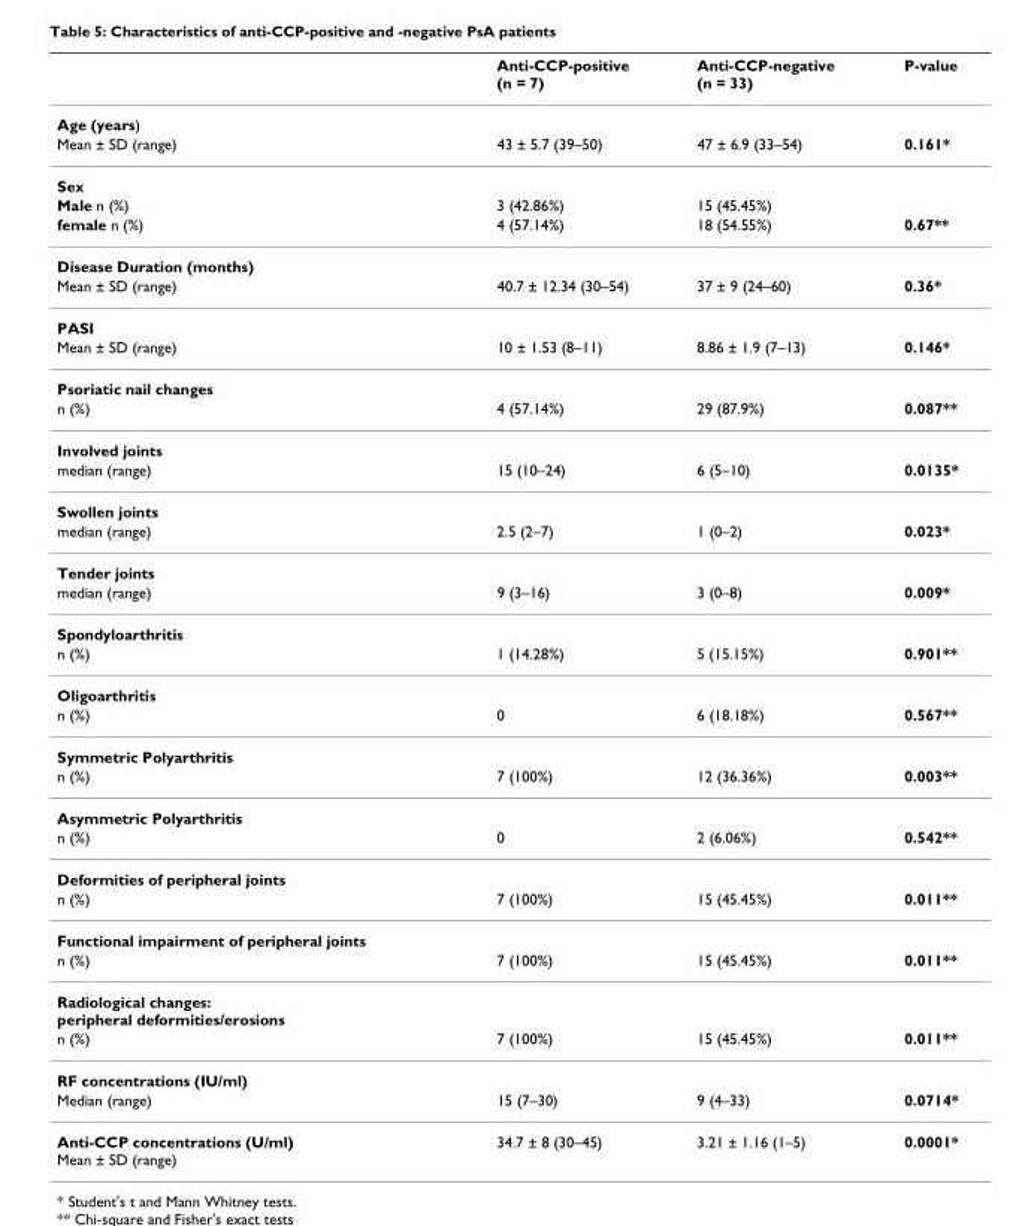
<table><thead><tr><td></td><td>Anti-CCP-positive (n = 7)</td><td>Anti-CCP-negative (n = 33)</td><td>P-value</td></tr></thead><tbody><tr><td colspan="4">Age (years)</td></tr><tr><td>Mean ± SD (range)</td><td>43 ± 5.7 (39–50)</td><td>47 ± 6.9 (33–54)</td><td>0.161*</td></tr><tr><td colspan="4">Sex</td></tr><tr><td>Male n (%)</td><td>3 (42.86%)</td><td>15 (45.45%)</td><td></td></tr><tr><td>female n (%)</td><td>4 (57.14%)</td><td>18 (54.55%)</td><td>0.67**</td></tr><tr><td colspan="4">Disease Duration (months)</td></tr><tr><td>Mean ± SD (range)</td><td>40.7 ± 12.34 (30–54)</td><td>37 ± 9 (24–60)</td><td>0.36*</td></tr><tr><td colspan="4">PASI</td></tr><tr><td>Mean ± SD (range)</td><td>10 ± 1.53 (8–11)</td><td>8.86 ± 1.9 (7–13)</td><td>0.146*</td></tr><tr><td colspan="4">Psoriatic nail changes</td></tr><tr><td>n (%)</td><td>4 (57.14%)</td><td>29 (87.9%)</td><td>0.087**</td></tr><tr><td colspan="4">Involved joints</td></tr><tr><td>median (range)</td><td>15 (10–24)</td><td>6 (5–10)</td><td>0.0135*</td></tr><tr><td colspan="4">Swollen joints</td></tr><tr><td>median (range)</td><td>2.5 (2–7)</td><td>1 (0–2)</td><td>0.023*</td></tr><tr><td colspan="4">Tender joints</td></tr><tr><td>median (range)</td><td>9 (3–16)</td><td>3 (0–8)</td><td>0.009*</td></tr><tr><td colspan="4">Spondyloarthritis</td></tr><tr><td>n (%)</td><td>1 (14.28%)</td><td>5 (15.15%)</td><td>0.901**</td></tr><tr><td colspan="4">Oligoarthritis</td></tr><tr><td>n (%)</td><td>0</td><td>6 (18.18%)</td><td>0.567**</td></tr><tr><td colspan="4">Symmetric Polyarthritis</td></tr><tr><td>n (%)</td><td>7 (100%)</td><td>12 (36.36%)</td><td>0.003**</td></tr><tr><td colspan="4">Asymmetric Polyarthritis</td></tr><tr><td>n (%)</td><td>0</td><td>2 (6.06%)</td><td>0.542**</td></tr><tr><td colspan="4">Deformities of peripheral joints</td></tr><tr><td>n (%)</td><td>7 (100%)</td><td>15 (45.45%)</td><td>0.011**</td></tr><tr><td colspan="4">Functional impairment of peripheral joints</td></tr><tr><td>n (%)</td><td>7 (100%)</td><td>15 (45.45%)</td><td>0.011**</td></tr><tr><td colspan="4">Radiological changes: peripheral deformities/erosions</td></tr><tr><td>n (%)</td><td>7 (100%)</td><td>15 (45.45%)</td><td>0.011**</td></tr><tr><td colspan="4">RF concentrations (IU/ml)</td></tr><tr><td>Median (range)</td><td>15 (7–30)</td><td>9 (4–33)</td><td>0.0714*</td></tr><tr><td>Anti-CCP concentrations (U/ml) Mean ± SD (range)</td><td>34.7 ± 8 (30–45)</td><td>3.21 ± 1.16 (1–5)</td><td>0.0001*</td></tr></tbody></table>